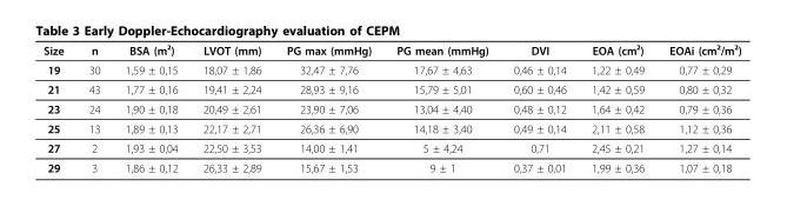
<table><thead><tr><td>Size</td><td>n</td><td>BSA (m²)</td><td>LVOT (mm)</td><td>PG max (mmHg)</td><td>PG mean (mmHg)</td><td>DVI</td><td>EOA (cm²)</td><td>EOAi (cm²/m²)</td></tr></thead><tbody><tr><td>19</td><td>30</td><td>1,59 ± 0,15</td><td>18,07 ± 1,86</td><td>32,47 ± 7,76</td><td>17,67 ± 4,63</td><td>0,46 ± 0,14</td><td>1,22 ± 0,49</td><td>0,77 ± 0,29</td></tr><tr><td>21</td><td>43</td><td>1,77 ± 0,16</td><td>19,41 ± 2,24</td><td>28,93 ± 9,16</td><td>15,79 ± 5,01</td><td>0,60 ± 0,46</td><td>1,42 ± 0,59</td><td>0,80 ± 0,32</td></tr><tr><td>23</td><td>24</td><td>1,90 ± 0,18</td><td>20,49 ± 2,61</td><td>23,90 ± 7,06</td><td>13,04 ± 4,40</td><td>0,48 ± 0,12</td><td>1,64 ± 0,42</td><td>0,79 ± 0,36</td></tr><tr><td>25</td><td>13</td><td>1,89 ± 0,13</td><td>22,17 ± 2,71</td><td>26,36 ± 6,90</td><td>14,18 ± 3,40</td><td>0,49 ± 0,14</td><td>2,11 ± 0,58</td><td>1,12 ± 0,36</td></tr><tr><td>27</td><td>2</td><td>1,93 ± 0,04</td><td>22,50 ± 3,53</td><td>14,00 ± 1,41</td><td>5 ± 4,24</td><td>0,71</td><td>2,45 ± 0,21</td><td>1,27 ± 0,14</td></tr><tr><td>29</td><td>3</td><td>1,86 ± 0,12</td><td>26,33 ± 2,89</td><td>15,67 ± 1,53</td><td>9 ± 1</td><td>0,37 ± 0,01</td><td>1,99 ± 0,36</td><td>1,07 ± 0,18</td></tr></tbody></table>